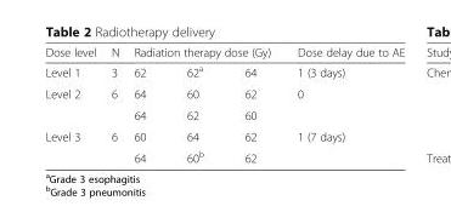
<table><thead><tr><td rowspan="2">Dose level Level 1</td><td rowspan="2">N 3</td><td colspan="3">Radiation therapy dose (Gy)</td><td rowspan="2">Dose delay due to AE 1 (3 days)</td></tr><tr><td>62</td><td>62<sup>a</sup></td><td>64</td></tr></thead><tbody><tr><td rowspan="2">Level 2</td><td>6</td><td>64</td><td>60</td><td>62</td><td rowspan="2">0</td></tr><tr><td></td><td>64</td><td>62</td><td>60</td></tr><tr><td rowspan="2">Level 3</td><td>6</td><td>60</td><td>64</td><td>62</td><td rowspan="2">1 (7 days)</td></tr><tr><td></td><td>64</td><td>60<sup>b</sup></td><td>62</td></tr></tbody></table>